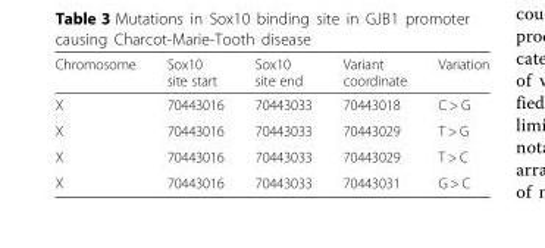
<table><thead><tr><td>Chromosome</td><td>Sox10 site start</td><td>Sox10 site end</td><td>Variant coordinate</td><td>Variation</td></tr></thead><tbody><tr><td>X</td><td>70443016</td><td>70443033</td><td>70443018</td><td>C &gt; G</td></tr><tr><td>X</td><td>70443016</td><td>70443033</td><td>70443029</td><td>T &gt; G</td></tr><tr><td>X</td><td>70443016</td><td>70443033</td><td>70443029</td><td>T &gt; C</td></tr><tr><td>X</td><td>70443016</td><td>70443033</td><td>70443031</td><td>G &gt; C</td></tr></tbody></table>